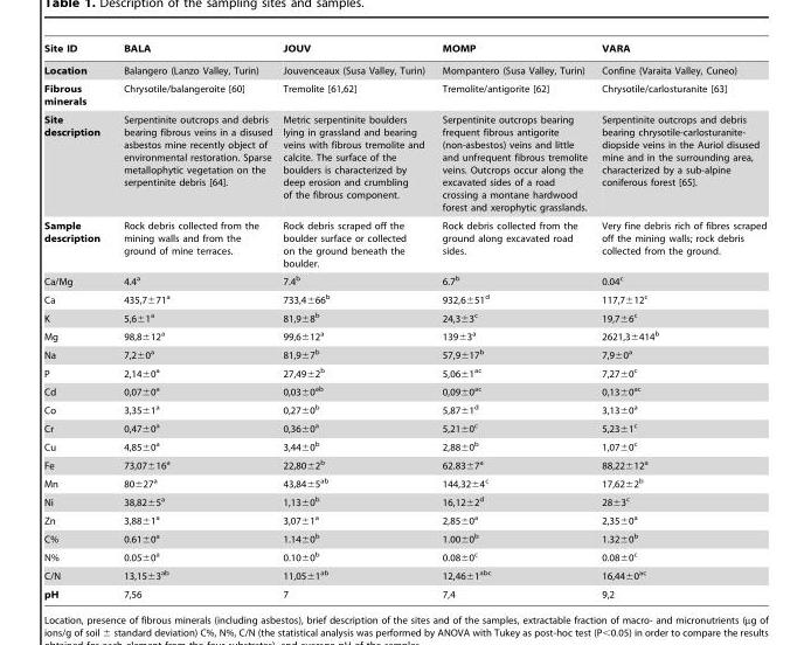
<table><thead><tr><td>Site ID</td><td>BALA</td><td>JOUV</td><td>MOMP</td><td>VARA</td></tr></thead><tbody><tr><td>Location</td><td>Balangero (Lanzo Valley, Turin)</td><td>Jouvenceaux (Susa Valley, Turin)</td><td>Mompantero (Susa Valley, Turin)</td><td>Confine (Varaita Valley, Cuneo)</td></tr><tr><td>Fibrous minerals</td><td>Chrysotile/balangeroite [60]</td><td>Tremolite [61,62]</td><td>Tremolite/antigorite [62]</td><td>Chrysotile/carlosturanite [63]</td></tr><tr><td>Site description</td><td>Serpentinite outcrops and debris bearing fibrous veins in a disused asbestos mine recently object of environmental restoration. Sparse metallophytic vegetation on the serpentinite debris [64].</td><td>Metric serpentinite boulders lying in grassland and bearing veins with fibrous tremolite and calcite. The surface of the boulders is characterized by deep erosion and crumbling of the fibrous component.</td><td>Serpentinite outcrops bearing frequent fibrous antigorite (non-asbestos) veins and little and unfrequent fibrous tremolite veins. Outcrops occur along the excavated sides of a road crossing a montane hardwood forest and xerophytic grasslands.</td><td>Serpentinite outcrops and debris bearing chrysotile-carlosturanite- diopside veins in the Auriol disused mine and in the surrounding area, characterized by a sub-alpine coniferous forest [65].</td></tr><tr><td>Sample description</td><td>Rock debris collected from the mining walls and from the ground of mine terraces.</td><td>Rock debris scraped off the boulder surface or collected on the ground beneath the boulder.</td><td>Rock debris collected from the ground along excavated road sides.</td><td>Very fine debris rich of fibres scraped off the mining walls; rock debris collected from the ground.</td></tr><tr><td>Ca/Mg</td><td>4.4<sup>a</sup></td><td>7.4<sup>b</sup></td><td>6.7<sup>b</sup></td><td>0.04<sup>c</sup></td></tr><tr><td>Ca</td><td>435,7±71<sup>a</sup></td><td>733,4±66<sup>b</sup></td><td>932,6±51<sup>d</sup></td><td>117,7±12<sup>c</sup></td></tr><tr><td>K</td><td>5,6±1<sup>a</sup></td><td>81,9±8<sup>b</sup></td><td>24,3±3<sup>c</sup></td><td>19,7±6<sup>c</sup></td></tr><tr><td>Mg</td><td>98,8±12<sup>a</sup></td><td>99,6±12<sup>a</sup></td><td>139±3<sup>a</sup></td><td>2621,3±414<sup>b</sup></td></tr><tr><td>Na</td><td>7,2±0<sup>a</sup></td><td>81,9±7<sup>b</sup></td><td>57,9±17<sup>b</sup></td><td>7,9±0<sup>a</sup></td></tr><tr><td>P</td><td>2,14±0<sup>a</sup></td><td>27,49±2<sup>b</sup></td><td>5,06±1<sup>ac</sup></td><td>7,27±0<sup>c</sup></td></tr><tr><td>Cd</td><td>0,07±0<sup>a</sup></td><td>0,03±0<sup>ab</sup></td><td>0,09±0<sup>ac</sup></td><td>0,13±0<sup>ac</sup></td></tr><tr><td>Co</td><td>3,35±1<sup>a</sup></td><td>0,27±0<sup>b</sup></td><td>5,87±1<sup>d</sup></td><td>3,13±0<sup>a</sup></td></tr><tr><td>Cr</td><td>0,47±0<sup>a</sup></td><td>0,36±0<sup>a</sup></td><td>5,21±0<sup>c</sup></td><td>5,23±1<sup>c</sup></td></tr><tr><td>Cu</td><td>4,85±0<sup>a</sup></td><td>3,44±0<sup>b</sup></td><td>2,88±0<sup>b</sup></td><td>1,07±0<sup>c</sup></td></tr><tr><td>Fe</td><td>73,07±16<sup>a</sup></td><td>22,80±2<sup>b</sup></td><td>62.83±7<sup>a</sup></td><td>88,22±12<sup>a</sup></td></tr><tr><td>Mn</td><td>80±27<sup>a</sup></td><td>43,84±5<sup>ab</sup></td><td>144,32±4<sup>c</sup></td><td>17,62±2<sup>b</sup></td></tr><tr><td>Ni</td><td>38,82±5<sup>a</sup></td><td>1,13±0<sup>b</sup></td><td>16,12±2<sup>d</sup></td><td>28±3<sup>c</sup></td></tr><tr><td>Zn</td><td>3,88±1<sup>a</sup></td><td>3,07±1<sup>a</sup></td><td>2,85±0<sup>a</sup></td><td>2,35±0<sup>a</sup></td></tr><tr><td>C%</td><td>0.61±0<sup>a</sup></td><td>1.14±0<sup>b</sup></td><td>1.00±0<sup>b</sup></td><td>1.32±0<sup>b</sup></td></tr><tr><td>N%</td><td>0.05±0<sup>a</sup></td><td>0.10±0<sup>b</sup></td><td>0.08±0<sup>c</sup></td><td>0.08±0<sup>c</sup></td></tr><tr><td>C/N</td><td>13,15±3<sup>ab</sup></td><td>11,05±1<sup>ab</sup></td><td>12,46±1<sup>abc</sup></td><td>16,44±0<sup>ac</sup></td></tr><tr><td>pH</td><td>7,56</td><td>7</td><td>7,4</td><td>9,2</td></tr></tbody></table>